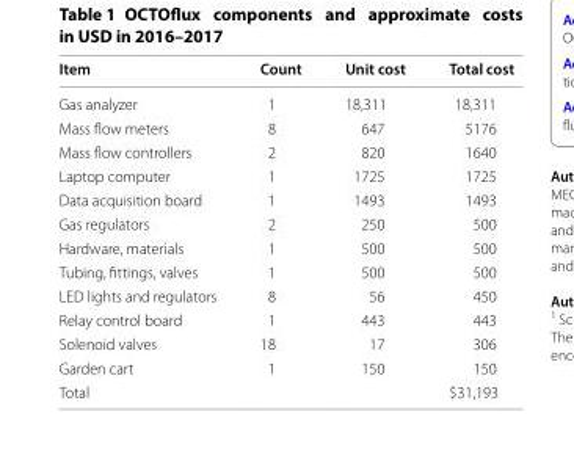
<table><thead><tr><td>Item</td><td>Count</td><td>Unit cost</td><td>Total cost</td></tr></thead><tbody><tr><td>Gas analyzer</td><td>1</td><td>18,311</td><td>18,311</td></tr><tr><td>Mass flow meters</td><td>8</td><td>647</td><td>5176</td></tr><tr><td>Mass flow controllers</td><td>2</td><td>820</td><td>1640</td></tr><tr><td>Laptop computer</td><td>1</td><td>1725</td><td>1725</td></tr><tr><td>Data acquisition board</td><td>1</td><td>1493</td><td>1493</td></tr><tr><td>Gas regulators</td><td>2</td><td>250</td><td>500</td></tr><tr><td>Hardware, materials</td><td>1</td><td>500</td><td>500</td></tr><tr><td>Tubing, fittings, valves</td><td>1</td><td>500</td><td>500</td></tr><tr><td>LED lights and regulators</td><td>8</td><td>56</td><td>450</td></tr><tr><td>Relay control board</td><td>1</td><td>443</td><td>443</td></tr><tr><td>Solenoid valves</td><td>18</td><td>17</td><td>306</td></tr><tr><td>Garden cart</td><td>1</td><td>150</td><td>150</td></tr><tr><td>Total</td><td></td><td></td><td>$31,193</td></tr></tbody></table>